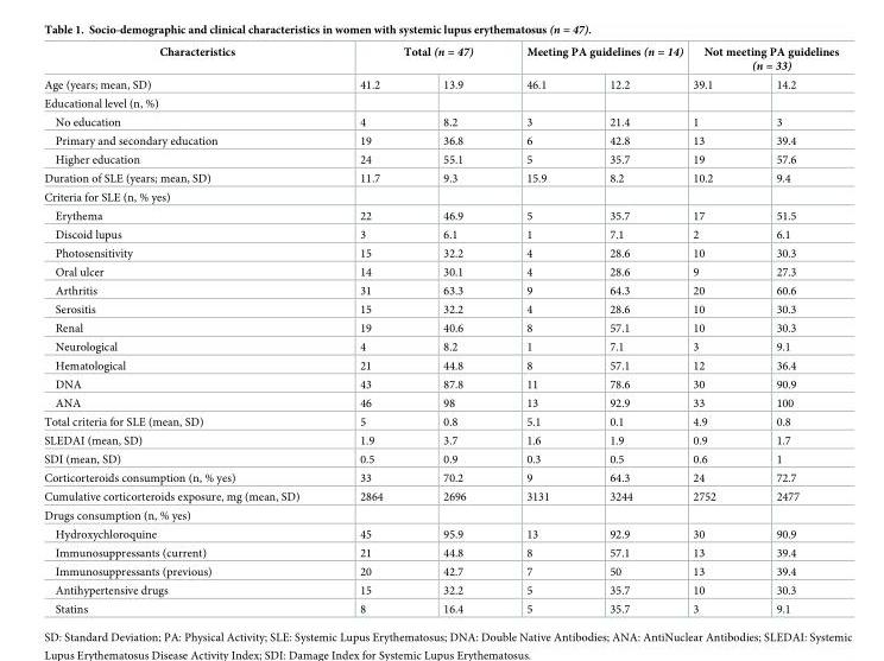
<table><thead><tr><td rowspan="2">Characteristics Age (years; mean, SD)</td><td colspan="2">Total (n = 47)</td><td colspan="2">Meeting PA guidelines (n = 14)</td><td colspan="2">Not meeting PA guidelines (n = 33)</td></tr><tr><td>41.2</td><td>13.9</td><td>46.1</td><td>12.2</td><td>39.1</td><td>14.2</td></tr></thead><tbody><tr><td colspan="7">Educational level (n, %)</td></tr><tr><td>No education</td><td>4</td><td>8.2</td><td>3</td><td>21.4</td><td>1</td><td>3</td></tr><tr><td>Primary and secondary education</td><td>19</td><td>36.8</td><td>6</td><td>42.8</td><td>13</td><td>39.4</td></tr><tr><td>Higher education</td><td>24</td><td>55.1</td><td>5</td><td>35.7</td><td>19</td><td>57.6</td></tr><tr><td>Duration of SLE (years; mean, SD)</td><td>11.7</td><td>9.3</td><td>15.9</td><td>8.2</td><td>10.2</td><td>9.4</td></tr><tr><td colspan="7">Criteria for SLE (n, % yes)</td></tr><tr><td>Erythema</td><td>22</td><td>46.9</td><td>5</td><td>35.7</td><td>17</td><td>51.5</td></tr><tr><td>Discoid lupus</td><td>3</td><td>6.1</td><td>1</td><td>7.1</td><td>2</td><td>6.1</td></tr><tr><td>Photosensitivity</td><td>15</td><td>32.2</td><td>4</td><td>28.6</td><td>10</td><td>30.3</td></tr><tr><td>Oral ulcer</td><td>14</td><td>30.1</td><td>4</td><td>28.6</td><td>9</td><td>27.3</td></tr><tr><td>Arthritis</td><td>31</td><td>63.3</td><td>9</td><td>64.3</td><td>20</td><td>60.6</td></tr><tr><td>Serositis</td><td>15</td><td>32.2</td><td>4</td><td>28.6</td><td>10</td><td>30.3</td></tr><tr><td>Renal</td><td>19</td><td>40.6</td><td>8</td><td>57.1</td><td>10</td><td>30.3</td></tr><tr><td>Neurological</td><td>4</td><td>8.2</td><td>1</td><td>7.1</td><td>3</td><td>9.1</td></tr><tr><td>Hematological</td><td>21</td><td>44.8</td><td>8</td><td>57.1</td><td>12</td><td>36.4</td></tr><tr><td>DNA</td><td>43</td><td>87.8</td><td>11</td><td>78.6</td><td>30</td><td>90.9</td></tr><tr><td>ANA</td><td>46</td><td>98</td><td>13</td><td>92.9</td><td>33</td><td>100</td></tr><tr><td>Total criteria for SLE (mean, SD)</td><td>5</td><td>0.8</td><td>5.1</td><td>0.1</td><td>4.9</td><td>0.8</td></tr><tr><td>SLEDAI (mean, SD)</td><td>1.9</td><td>3.7</td><td>1.6</td><td>1.9</td><td>0.9</td><td>1.7</td></tr><tr><td>SDI (mean, SD)</td><td>0.5</td><td>0.9</td><td>0.3</td><td>0.5</td><td>0.6</td><td>1</td></tr><tr><td>Corticorteroids consumption (n, % yes)</td><td>33</td><td>70.2</td><td>9</td><td>64.3</td><td>24</td><td>72.7</td></tr><tr><td>Cumulative corticorteroids exposure, mg (mean, SD)</td><td>2864</td><td>2696</td><td>3131</td><td>3244</td><td>2752</td><td>2477</td></tr><tr><td colspan="7">Drugs consumption (n, % yes)</td></tr><tr><td>Hydroxychloroquine</td><td>45</td><td>95.9</td><td>13</td><td>92.9</td><td>30</td><td>90.9</td></tr><tr><td>Immunosuppressants (current)</td><td>21</td><td>44.8</td><td>8</td><td>57.1</td><td>13</td><td>39.4</td></tr><tr><td>Immunosuppressants (previous)</td><td>20</td><td>42.7</td><td>7</td><td>50</td><td>13</td><td>39.4</td></tr><tr><td>Antihypertensive drugs</td><td>15</td><td>32.2</td><td>5</td><td>35.7</td><td>10</td><td>30.3</td></tr><tr><td>Statins</td><td>8</td><td>16.4</td><td>5</td><td>35.7</td><td>3</td><td>9.1</td></tr></tbody></table>